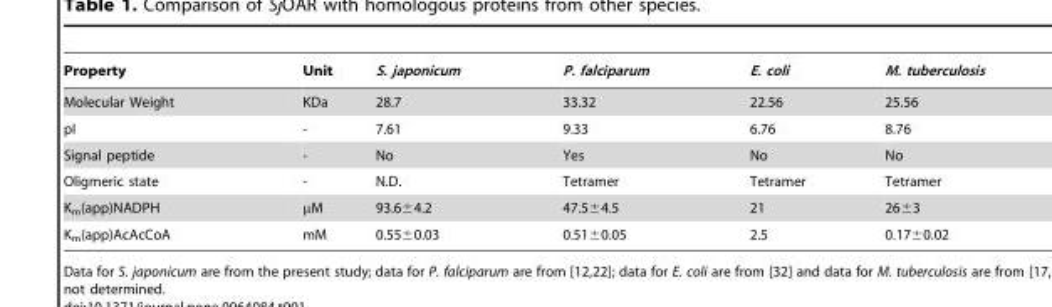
<table><thead><tr><td>Property</td><td>Unit</td><td>S. japonicum</td><td>P. falciparum</td><td>E. coli</td><td>M. tuberculosis</td></tr></thead><tbody><tr><td>Molecular Weight</td><td>KDa</td><td>28.7</td><td>33.32</td><td>22.56</td><td>25.56</td></tr><tr><td>pI</td><td>-</td><td>7.61</td><td>9.33</td><td>6.76</td><td>8.76</td></tr><tr><td>Signal peptide</td><td>-</td><td>No</td><td>Yes</td><td>No</td><td>No</td></tr><tr><td>Oligmeric state</td><td>-</td><td>N.D.</td><td>Tetramer</td><td>Tetramer</td><td>Tetramer</td></tr><tr><td>K<sub>m</sub>(app)NADPH</td><td>μM</td><td>93.6±4.2</td><td>47.5±4.5</td><td>21</td><td>26±3</td></tr><tr><td>K<sub>m</sub>(app)AcAcCoA</td><td>mM</td><td>0.55±0.03</td><td>0.51±0.05</td><td>2.5</td><td>0.17±0.02</td></tr></tbody></table>